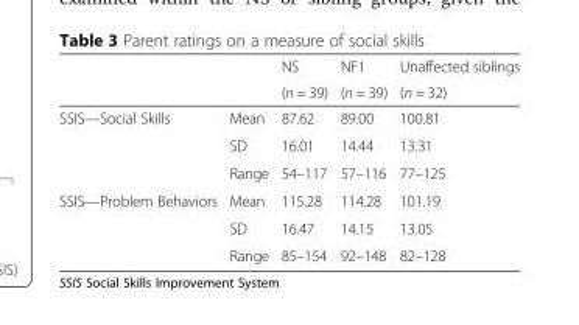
<table><thead><tr><td rowspan="2"></td><td rowspan="2"></td><td rowspan="2">NS (n = 39)</td><td rowspan="2">NF1 (n = 39)</td><td rowspan="2">Unaffected siblings (n = 32)</td></tr><tr></tr></thead><tbody><tr><td rowspan="3">SSIS—Social Skills</td><td>Mean</td><td>87.62</td><td>89.00</td><td>100.81</td></tr><tr><td>SD</td><td>16.01</td><td>14.44</td><td>13.31</td></tr><tr><td>Range</td><td>54–117</td><td>57–116</td><td>77–125</td></tr><tr><td rowspan="3">SSIS—Problem Behaviors</td><td>Mean</td><td>115.28</td><td>114.28</td><td>101.19</td></tr><tr><td>SD</td><td>16.47</td><td>14.15</td><td>13.05</td></tr><tr><td>Range</td><td>85–154</td><td>92–148</td><td>82–128</td></tr></tbody></table>